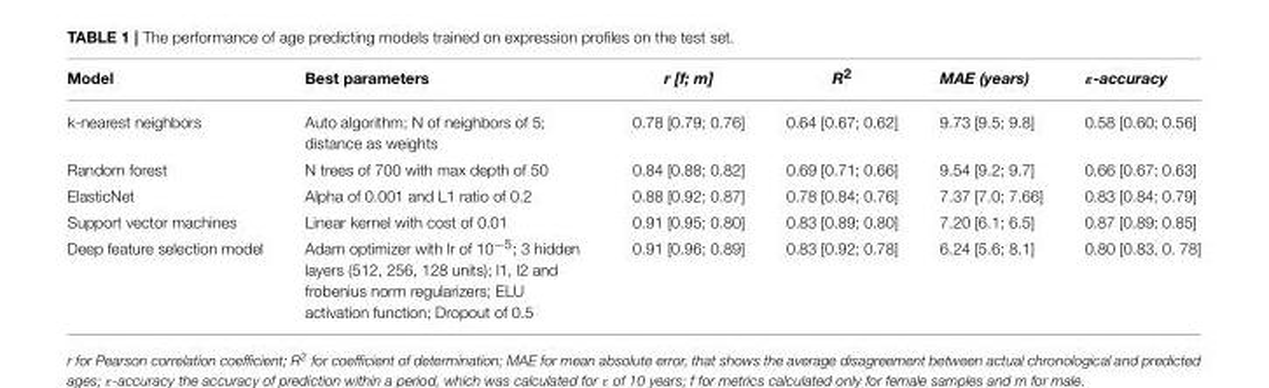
<table><thead><tr><td>Model</td><td>Best parameters</td><td>r [f; m]</td><td>R<sup>2</sup></td><td>MAE (years)</td><td>ε-accuracy</td></tr></thead><tbody><tr><td>k-nearest neighbors</td><td>Auto algorithm; N of neighbors of 5; distance as weights</td><td>0.78 [0.79; 0.76]</td><td>0.64 [0.67; 0.62]</td><td>9.73 [9.5; 9.8]</td><td>0.58 [0.60; 0.56]</td></tr><tr><td>Random forest</td><td>N trees of 700 with max depth of 50</td><td>0.84 [0.88; 0.82]</td><td>0.69 [0.71; 0.66]</td><td>9.54 [9.2; 9.7]</td><td>0.66 [0.67; 0.63]</td></tr><tr><td>ElasticNet</td><td>Alpha of 0.001 and L1 ratio of 0.2</td><td>0.88 [0.92; 0.87]</td><td>0.78 [0.84; 0.76]</td><td>7.37 [7.0; 7.66]</td><td>0.83 [0.84; 0.79]</td></tr><tr><td>Support vector machines</td><td>Linear kernel with cost of 0.01</td><td>0.91 [0.95; 0.80]</td><td>0.83 [0.89; 0.80]</td><td>7.20 [6.1; 6.5]</td><td>0.87 [0.89; 0.85]</td></tr><tr><td>Deep feature selection model</td><td>Adam optimizer with lr of 10<sup>−5</sup>; 3 hidden layers (512, 256, 128 units); l1, l2 and frobenius norm regularizers; ELU activation function; Dropout of 0.5</td><td>0.91 [0.96; 0.89]</td><td>0.83 [0.92; 0.78]</td><td>6.24 [5.6; 8.1]</td><td>0.80 [0.83, 0. 78]</td></tr></tbody></table>